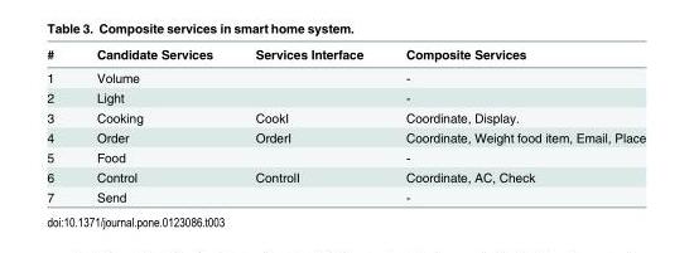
<table><thead><tr><td>#</td><td>Candidate Services</td><td>Services Interface</td><td>Composite Services</td></tr></thead><tbody><tr><td>1</td><td>Volume</td><td></td><td>-</td></tr><tr><td>2</td><td>Light</td><td></td><td>-</td></tr><tr><td>3</td><td>Cooking</td><td>CookI</td><td>Coordinate, Display.</td></tr><tr><td>4</td><td>Order</td><td>OrderI</td><td>Coordinate, Weight food item, Email, Place</td></tr><tr><td>5</td><td>Food</td><td></td><td>-</td></tr><tr><td>6</td><td>Control</td><td>ControlI</td><td>Coordinate, AC, Check</td></tr><tr><td>7</td><td>Send</td><td></td><td>-</td></tr></tbody></table>